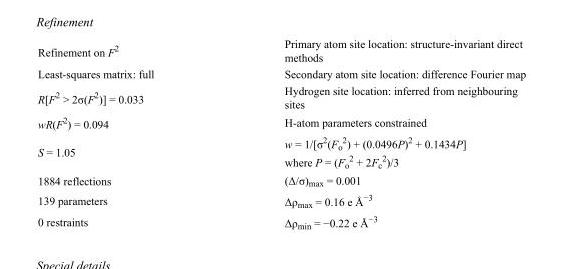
<table><tbody><tr><td>Refinement on F<sup>2</sup></td><td>Primary atom site location: structure-invariant direct methods</td></tr><tr><td>Least-squares matrix: full</td><td>Secondary atom site location: difference Fourier map</td></tr><tr><td>R[F<sup>2</sup> &gt; 2σ(F<sup>2</sup>)] = 0.033</td><td>Hydrogen site location: inferred from neighbouring sites</td></tr><tr><td>wR(F<sup>2</sup>) = 0.094</td><td>H-atom parameters constrained</td></tr><tr><td>S = 1.05</td><td>w = 1/[σ<sup>2</sup>(F<sub>o</sub> <sup>2</sup>) + (0.0496P)<sup>2</sup> + 0.1434P] where P = (F<sub>o</sub> <sup>2</sup> + 2F<sub>c</sub> <sup>2</sup>)/3</td></tr><tr><td>1884 reflections</td><td>(Δ/σ)<sub>max</sub> = 0.001</td></tr><tr><td>139 parameters</td><td>Δρ<sub>max</sub> = 0.16 e Å<sup>−3</sup></td></tr><tr><td>0 restraints</td><td>Δρ<sub>min</sub> = −0.22 e Å<sup>−3</sup></td></tr></tbody></table>